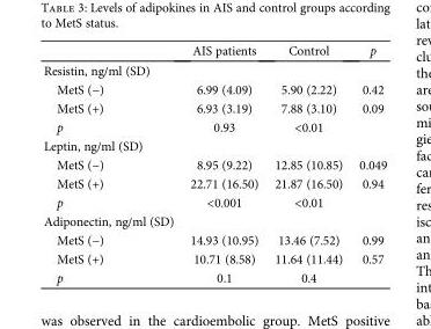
<table><thead><tr><td></td><td>AIS patients</td><td>Control</td><td>p</td></tr></thead><tbody><tr><td colspan="4">Resistin, ng/ml (SD)</td></tr><tr><td>MetS (−)</td><td>6.99 (4.09)</td><td>5.90 (2.22)</td><td>0.42</td></tr><tr><td>MetS (+)</td><td>6.93 (3.19)</td><td>7.88 (3.10)</td><td>0.09</td></tr><tr><td>p</td><td>0.93</td><td>&lt;0.01</td><td></td></tr><tr><td colspan="4">Leptin, ng/ml (SD)</td></tr><tr><td>MetS (−)</td><td>8.95 (9.22)</td><td>12.85 (10.85)</td><td>0.049</td></tr><tr><td>MetS (+)</td><td>22.71 (16.50)</td><td>21.87 (16.50)</td><td>0.94</td></tr><tr><td>p</td><td>&lt;0.001</td><td>&lt;0.01</td><td></td></tr><tr><td colspan="4">Adiponectin, ng/ml (SD)</td></tr><tr><td>MetS (−)</td><td>14.93 (10.95)</td><td>13.46 (7.52)</td><td>0.99</td></tr><tr><td>MetS (+)</td><td>10.71 (8.58)</td><td>11.64 (11.44)</td><td>0.57</td></tr><tr><td>p</td><td>0.1</td><td>0.4</td><td></td></tr></tbody></table>